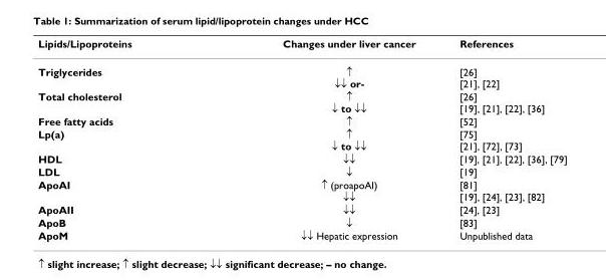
<table><thead><tr><td>Lipids/Lipoproteins</td><td>Changes under liver cancer</td><td>References</td></tr></thead><tbody><tr><td>Triglycerides</td><td>↑ ↓↓ or-</td><td>[26] [21], [22]</td></tr><tr><td>Total cholesterol</td><td>↑ ↓ to ↓↓</td><td>[26] [19], [21], [22], [36]</td></tr><tr><td>Free fatty acids</td><td>↑</td><td>[52]</td></tr><tr><td>Lp(a)</td><td>↑ ↓ to ↓↓</td><td>[75] [21], [72], [73]</td></tr><tr><td>HDL</td><td>↓↓</td><td>[19], [21], [22], [36], [79]</td></tr><tr><td>LDL</td><td>↓</td><td>[19]</td></tr><tr><td>ApoAI</td><td>↑ (proapoAI) ↓↓</td><td>[81] [19], [24], [23], [82]</td></tr><tr><td>ApoAII</td><td>↓↓</td><td>[24], [23]</td></tr><tr><td>ApoB</td><td>↓</td><td>[83]</td></tr><tr><td>ApoM</td><td>↓↓ Hepatic expression</td><td>Unpublished data</td></tr></tbody></table>